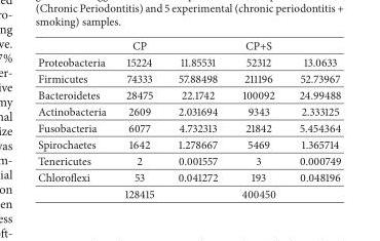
<table><thead><tr><td></td><td>CP</td><td></td><td>CP+S</td><td></td></tr></thead><tbody><tr><td>Proteobacteria</td><td>15224</td><td>11.85531</td><td>52312</td><td>13.0633</td></tr><tr><td>Firmicutes</td><td>74333</td><td>57.88498</td><td>211196</td><td>52.73967</td></tr><tr><td>Bacteroidetes</td><td>28475</td><td>22.1742</td><td>100092</td><td>24.99488</td></tr><tr><td>Actinobacteria</td><td>2609</td><td>2.031694</td><td>9343</td><td>2.333125</td></tr><tr><td>Fusobacteria</td><td>6077</td><td>4.732313</td><td>21842</td><td>5.454364</td></tr><tr><td>Spirochaetes</td><td>1642</td><td>1.278667</td><td>5469</td><td>1.365714</td></tr><tr><td>Tenericutes</td><td>2</td><td>0.001557</td><td>3</td><td>0.000749</td></tr><tr><td rowspan="2">Chloroflexi</td><td>53</td><td>0.041272</td><td>193</td><td>0.048196</td></tr><tr><td>128415</td><td></td><td>400450</td><td></td></tr></tbody></table>